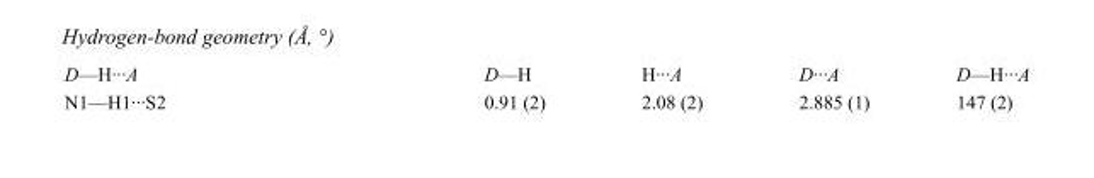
<table><tbody><tr><td>D—H···A</td><td>D—H</td><td>H···A</td><td>D···A</td><td>D—H···A</td></tr><tr><td>N1—H1···S2</td><td>0.91 (2)</td><td>2.08 (2)</td><td>2.885 (1)</td><td>147 (2)</td></tr></tbody></table>